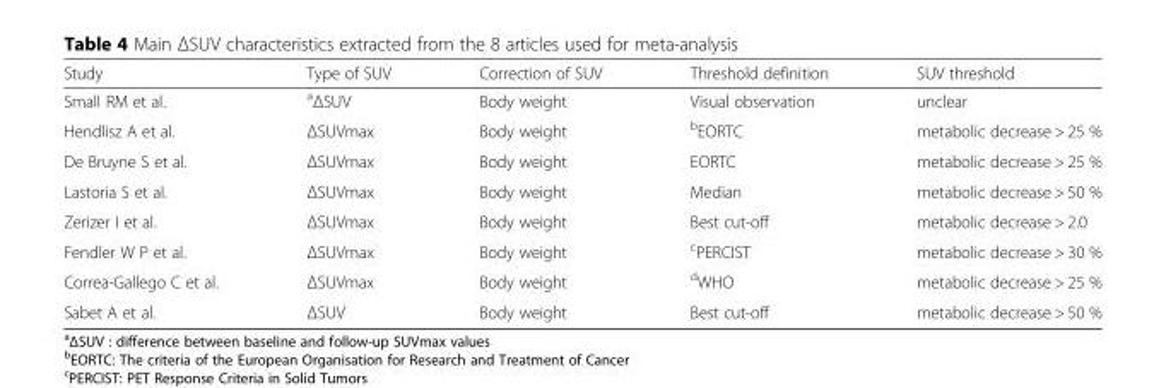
<table><thead><tr><td>Study</td><td>Type of SUV</td><td>Correction of SUV</td><td>Threshold definition</td><td>SUV threshold</td></tr></thead><tbody><tr><td>Small RM et al.</td><td><sup>a</sup>ΔSUV</td><td>Body weight</td><td>Visual observation</td><td>unclear</td></tr><tr><td>Hendlisz A et al.</td><td>ΔSUVmax</td><td>Body weight</td><td><sup>b</sup>EORTC</td><td>metabolic decrease &gt; 25 %</td></tr><tr><td>De Bruyne S et al.</td><td>ΔSUVmax</td><td>Body weight</td><td>EORTC</td><td>metabolic decrease &gt; 25 %</td></tr><tr><td>Lastoria S et al.</td><td>ΔSUVmax</td><td>Body weight</td><td>Median</td><td>metabolic decrease &gt; 50 %</td></tr><tr><td>Zerizer I et al.</td><td>ΔSUVmax</td><td>Body weight</td><td>Best cut-off</td><td>metabolic decrease &gt; 2.0</td></tr><tr><td>Fendler W P et al.</td><td>ΔSUVmax</td><td>Body weight</td><td><sup>c</sup>PERCIST</td><td>metabolic decrease &gt; 30 %</td></tr><tr><td>Correa-Gallego C et al.</td><td>ΔSUVmax</td><td>Body weight</td><td><sup>d</sup>WHO</td><td>metabolic decrease &gt; 25 %</td></tr><tr><td>Sabet A et al.</td><td>ΔSUV</td><td>Body weight</td><td>Best cut-off</td><td>metabolic decrease &gt; 50 %</td></tr></tbody></table>